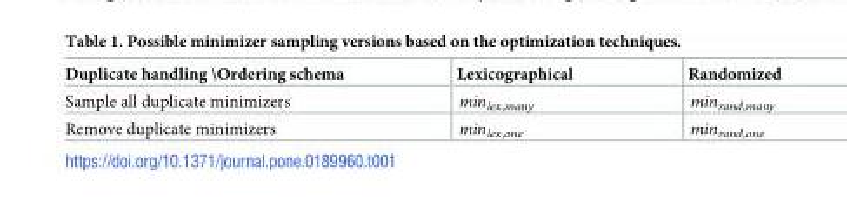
<table><thead><tr><td>Duplicate handling \Ordering schema</td><td>Lexicographical</td><td>Randomized</td></tr></thead><tbody><tr><td>Sample all duplicate minimizers</td><td>min<sub>lex,many</sub></td><td>min<sub>rand,many</sub></td></tr><tr><td>Remove duplicate minimizers</td><td>min<sub>lex,one</sub></td><td>min<sub>rand,one</sub></td></tr></tbody></table>